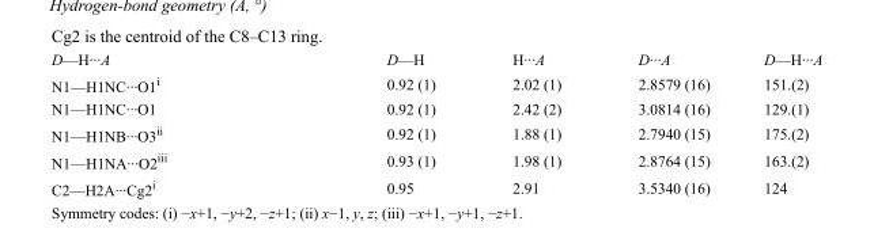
<table><tbody><tr><td>D—H···A</td><td>D—H</td><td>H···A</td><td>D···A</td><td>D—H···A</td></tr><tr><td>N1—H1NC···O1<sup>i</sup></td><td>0.92 (1)</td><td>2.02 (1)</td><td>2.8579 (16)</td><td>151.(2)</td></tr><tr><td>N1—H1NC···O1</td><td>0.92 (1)</td><td>2.42 (2)</td><td>3.0814 (16)</td><td>129.(1)</td></tr><tr><td>N1—H1NB···O3<sup>ii</sup></td><td>0.92 (1)</td><td>1.88 (1)</td><td>2.7940 (15)</td><td>175.(2)</td></tr><tr><td>N1—H1NA···O2<sup>iii</sup></td><td>0.93 (1)</td><td>1.98 (1)</td><td>2.8764 (15)</td><td>163.(2)</td></tr><tr><td>C2—H2A···Cg2<sup>i</sup></td><td>0.95</td><td>2.91</td><td>3.5340 (16)</td><td>124</td></tr></tbody></table>